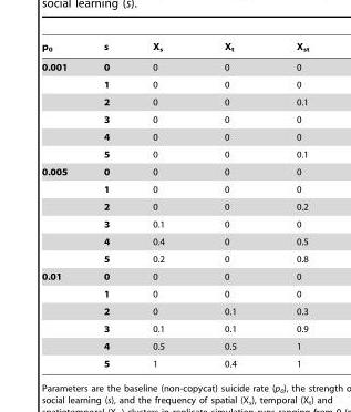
<table><thead><tr><td>p<sub>0</sub></td><td>s</td><td>X<sub>s</sub></td><td>X<sub>t</sub></td><td>X<sub>st</sub></td></tr></thead><tbody><tr><td rowspan="6">0.001</td><td>0</td><td>0</td><td>0</td><td>0</td></tr><tr><td>1</td><td>0</td><td>0</td><td>0</td></tr><tr><td>2</td><td>0</td><td>0</td><td>0.1</td></tr><tr><td>3</td><td>0</td><td>0</td><td>0</td></tr><tr><td>4</td><td>0</td><td>0</td><td>0</td></tr><tr><td>5</td><td>0</td><td>0</td><td>0.1</td></tr><tr><td rowspan="6">0.005</td><td>0</td><td>0</td><td>0</td><td>0</td></tr><tr><td>1</td><td>0</td><td>0</td><td>0</td></tr><tr><td>2</td><td>0</td><td>0</td><td>0.2</td></tr><tr><td>3</td><td>0.1</td><td>0</td><td>0</td></tr><tr><td>4</td><td>0.4</td><td>0</td><td>0.5</td></tr><tr><td>5</td><td>0.2</td><td>0</td><td>0.8</td></tr><tr><td rowspan="6">0.01</td><td>0</td><td>0</td><td>0</td><td>0</td></tr><tr><td>1</td><td>0</td><td>0</td><td>0</td></tr><tr><td>2</td><td>0</td><td>0.1</td><td>0.3</td></tr><tr><td>3</td><td>0.1</td><td>0.1</td><td>0.9</td></tr><tr><td>4</td><td>0.5</td><td>0.5</td><td>1</td></tr><tr><td>5</td><td>1</td><td>0.4</td><td>1</td></tr></tbody></table>